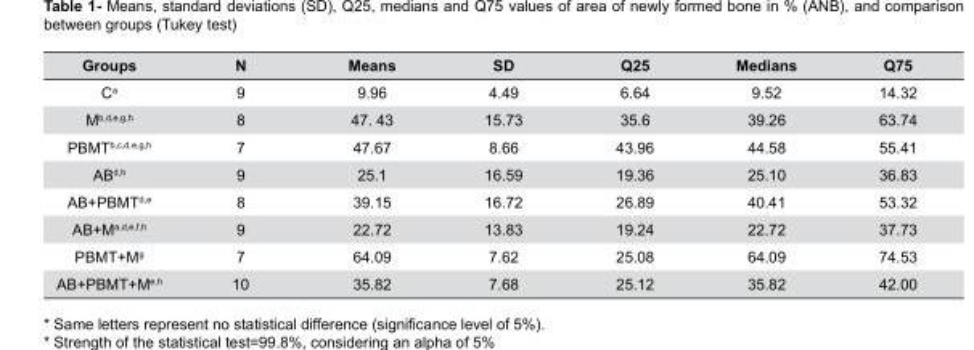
<table><thead><tr><td>Groups</td><td>N</td><td>Means</td><td>SD</td><td>Q25</td><td>Medians</td><td>Q75</td></tr></thead><tbody><tr><td>C<sup>a</sup></td><td>9</td><td>9.96</td><td>4.49</td><td>6.64</td><td>9.52</td><td>14.32</td></tr><tr><td>M<sup>b,d,e,g,h</sup></td><td>8</td><td>47. 43</td><td>15.73</td><td>35.6</td><td>39.26</td><td>63.74</td></tr><tr><td>PBMT<sup>b,c,d,e,g,h</sup></td><td>7</td><td>47.67</td><td>8.66</td><td>43.96</td><td>44.58</td><td>55.41</td></tr><tr><td>AB<sup>d,h</sup></td><td>9</td><td>25.1</td><td>16.59</td><td>19.36</td><td>25.10</td><td>36.83</td></tr><tr><td>AB+PBMT<sup>d,e</sup></td><td>8</td><td>39.15</td><td>16.72</td><td>26.89</td><td>40.41</td><td>53.32</td></tr><tr><td>AB+M<sup>a,d,e,f,h</sup></td><td>9</td><td>22.72</td><td>13.83</td><td>19.24</td><td>22.72</td><td>37.73</td></tr><tr><td>PBMT+M<sup>g</sup></td><td>7</td><td>64.09</td><td>7.62</td><td>25.08</td><td>64.09</td><td>74.53</td></tr><tr><td>AB+PBMT+M<sup>e,h</sup></td><td>10</td><td>35.82</td><td>7.68</td><td>25.12</td><td>35.82</td><td>42.00</td></tr></tbody></table>